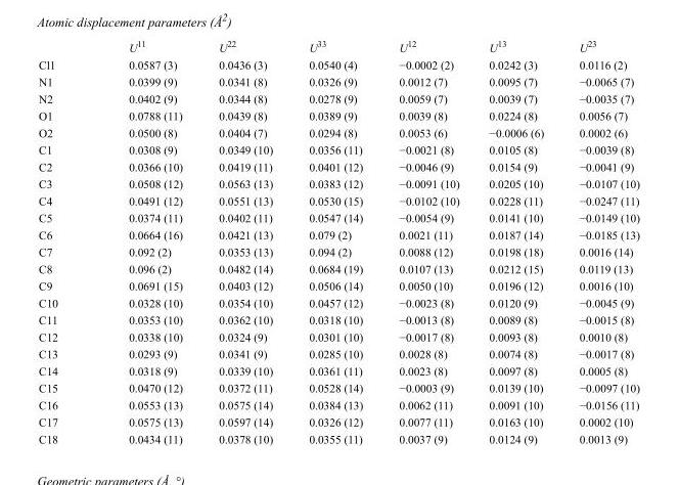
<table><thead><tr><td></td><td>U<sup>11</sup></td><td>U<sup>22</sup></td><td>U<sup>33</sup></td><td>U<sup>12</sup></td><td>U<sup>13</sup></td><td>U<sup>23</sup></td></tr></thead><tbody><tr><td>Cl1</td><td>0.0587 (3)</td><td>0.0436 (3)</td><td>0.0540 (4)</td><td>−0.0002 (2)</td><td>0.0242 (3)</td><td>0.0116 (2)</td></tr><tr><td>N1</td><td>0.0399 (9)</td><td>0.0341 (8)</td><td>0.0326 (9)</td><td>0.0012 (7)</td><td>0.0095 (7)</td><td>−0.0065 (7)</td></tr><tr><td>N2</td><td>0.0402 (9)</td><td>0.0344 (8)</td><td>0.0278 (9)</td><td>0.0059 (7)</td><td>0.0039 (7)</td><td>−0.0035 (7)</td></tr><tr><td>O1</td><td>0.0788 (11)</td><td>0.0439 (8)</td><td>0.0389 (9)</td><td>0.0039 (8)</td><td>0.0224 (8)</td><td>0.0056 (7)</td></tr><tr><td>O2</td><td>0.0500 (8)</td><td>0.0404 (7)</td><td>0.0294 (8)</td><td>0.0053 (6)</td><td>−0.0006 (6)</td><td>0.0002 (6)</td></tr><tr><td>C1</td><td>0.0308 (9)</td><td>0.0349 (10)</td><td>0.0356 (11)</td><td>−0.0021 (8)</td><td>0.0105 (8)</td><td>−0.0039 (8)</td></tr><tr><td>C2</td><td>0.0366 (10)</td><td>0.0419 (11)</td><td>0.0401 (12)</td><td>−0.0046 (9)</td><td>0.0154 (9)</td><td>−0.0041 (9)</td></tr><tr><td>C3</td><td>0.0508 (12)</td><td>0.0563 (13)</td><td>0.0383 (12)</td><td>−0.0091 (10)</td><td>0.0205 (10)</td><td>−0.0107 (10)</td></tr><tr><td>C4</td><td>0.0491 (12)</td><td>0.0551 (13)</td><td>0.0530 (15)</td><td>−0.0102 (10)</td><td>0.0228 (11)</td><td>−0.0247 (11)</td></tr><tr><td>C5</td><td>0.0374 (11)</td><td>0.0402 (11)</td><td>0.0547 (14)</td><td>−0.0054 (9)</td><td>0.0141 (10)</td><td>−0.0149 (10)</td></tr><tr><td>C6</td><td>0.0664 (16)</td><td>0.0421 (13)</td><td>0.079 (2)</td><td>0.0021 (11)</td><td>0.0187 (14)</td><td>−0.0185 (13)</td></tr><tr><td>C7</td><td>0.092 (2)</td><td>0.0353 (13)</td><td>0.094 (2)</td><td>0.0088 (12)</td><td>0.0198 (18)</td><td>0.0016 (14)</td></tr><tr><td>C8</td><td>0.096 (2)</td><td>0.0482 (14)</td><td>0.0684 (19)</td><td>0.0107 (13)</td><td>0.0212 (15)</td><td>0.0119 (13)</td></tr><tr><td>C9</td><td>0.0691 (15)</td><td>0.0403 (12)</td><td>0.0506 (14)</td><td>0.0050 (10)</td><td>0.0196 (12)</td><td>0.0016 (10)</td></tr><tr><td>C10</td><td>0.0328 (10)</td><td>0.0354 (10)</td><td>0.0457 (12)</td><td>−0.0023 (8)</td><td>0.0120 (9)</td><td>−0.0045 (9)</td></tr><tr><td>C11</td><td>0.0353 (10)</td><td>0.0362 (10)</td><td>0.0318 (10)</td><td>−0.0013 (8)</td><td>0.0089 (8)</td><td>−0.0015 (8)</td></tr><tr><td>C12</td><td>0.0338 (10)</td><td>0.0324 (9)</td><td>0.0301 (10)</td><td>−0.0017 (8)</td><td>0.0093 (8)</td><td>0.0010 (8)</td></tr><tr><td>C13</td><td>0.0293 (9)</td><td>0.0341 (9)</td><td>0.0285 (10)</td><td>0.0028 (8)</td><td>0.0074 (8)</td><td>−0.0017 (8)</td></tr><tr><td>C14</td><td>0.0318 (9)</td><td>0.0339 (10)</td><td>0.0361 (11)</td><td>0.0023 (8)</td><td>0.0097 (8)</td><td>0.0005 (8)</td></tr><tr><td>C15</td><td>0.0470 (12)</td><td>0.0372 (11)</td><td>0.0528 (14)</td><td>−0.0003 (9)</td><td>0.0139 (10)</td><td>−0.0097 (10)</td></tr><tr><td>C16</td><td>0.0553 (13)</td><td>0.0575 (14)</td><td>0.0384 (13)</td><td>0.0062 (11)</td><td>0.0091 (10)</td><td>−0.0156 (11)</td></tr><tr><td>C17</td><td>0.0575 (13)</td><td>0.0597 (14)</td><td>0.0326 (12)</td><td>0.0077 (11)</td><td>0.0163 (10)</td><td>0.0002 (10)</td></tr><tr><td>C18</td><td>0.0434 (11)</td><td>0.0378 (10)</td><td>0.0355 (11)</td><td>0.0037 (9)</td><td>0.0124 (9)</td><td>0.0013 (9)</td></tr></tbody></table>